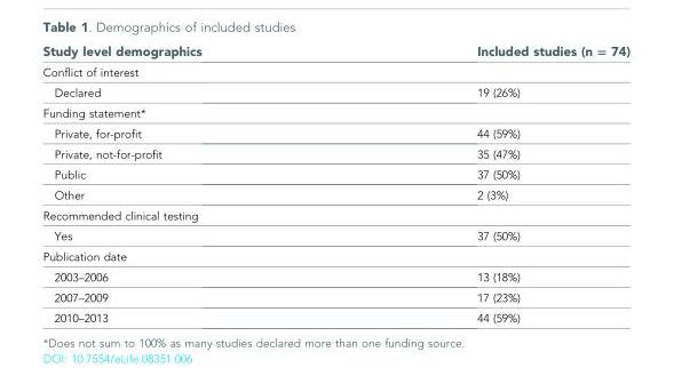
<table><thead><tr><td>Study level demographics</td><td>Included studies (n = 74)</td></tr></thead><tbody><tr><td colspan="2">Conflict of interest</td></tr><tr><td>Declared</td><td>19 (26%)</td></tr><tr><td colspan="2">Funding statement*</td></tr><tr><td>Private, for-profit</td><td>44 (59%)</td></tr><tr><td>Private, not-for-profit</td><td>35 (47%)</td></tr><tr><td>Public</td><td>37 (50%)</td></tr><tr><td>Other</td><td>2 (3%)</td></tr><tr><td colspan="2">Recommended clinical testing</td></tr><tr><td>Yes</td><td>37 (50%)</td></tr><tr><td colspan="2">Publication date</td></tr><tr><td>2003–2006</td><td>13 (18%)</td></tr><tr><td>2007–2009</td><td>17 (23%)</td></tr><tr><td>2010–2013</td><td>44 (59%)</td></tr></tbody></table>